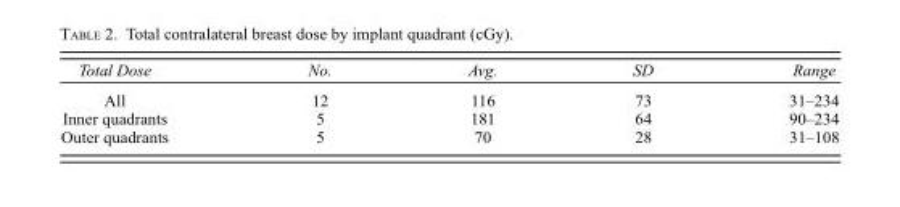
<table><thead><tr><td>Total Dose</td><td>No.</td><td>Avg.</td><td>SD</td><td>Range</td></tr></thead><tbody><tr><td>All</td><td>12</td><td>116</td><td>73</td><td>31–234</td></tr><tr><td>Inner quadrants</td><td>5</td><td>181</td><td>64</td><td>90–234</td></tr><tr><td>Outer quadrants</td><td>5</td><td>70</td><td>28</td><td>31–108</td></tr></tbody></table>